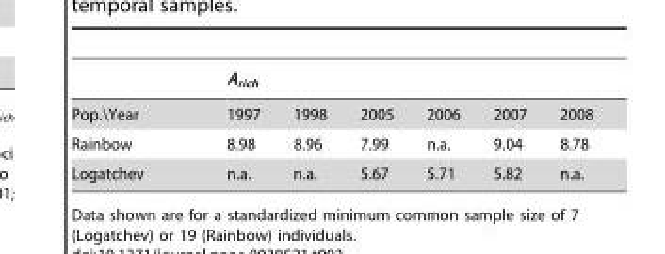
<table><thead><tr><td rowspan="2">Pop.\Year</td><td colspan="6">A<sub>rich</sub></td></tr><tr><td>1997</td><td>1998</td><td>2005</td><td>2006</td><td>2007</td><td>2008</td></tr></thead><tbody><tr><td>Rainbow</td><td>8.98</td><td>8.96</td><td>7.99</td><td>n.a.</td><td>9.04</td><td>8.78</td></tr><tr><td>Logatchev</td><td>n.a.</td><td>n.a.</td><td>5.67</td><td>5.71</td><td>5.82</td><td>n.a.</td></tr></tbody></table>